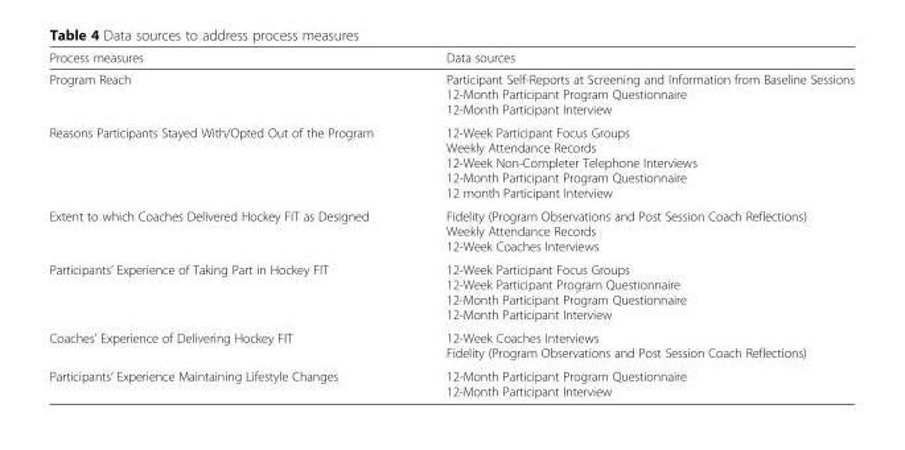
<table><thead><tr><td>Process measures</td><td>Data sources</td></tr></thead><tbody><tr><td>Program Reach</td><td>Participant Self-Reports at Screening and Information from Baseline Sessions 12-Month Participant Program Questionnaire 12-Month Participant Interview</td></tr><tr><td>Reasons Participants Stayed With/Opted Out of the Program</td><td>12-Week Participant Focus Groups Weekly Attendance Records 12-Week Non-Completer Telephone Interviews 12-Month Participant Program Questionnaire 12 month Participant Interview</td></tr><tr><td>Extent to which Coaches Delivered Hockey FIT as Designed</td><td>Fidelity (Program Observations and Post Session Coach Reflections) Weekly Attendance Records 12-Week Coaches Interviews</td></tr><tr><td>Participants’ Experience of Taking Part in Hockey FIT</td><td>12-Week Participant Focus Groups 12-Week Participant Program Questionnaire 12-Month Participant Program Questionnaire 12-Month Participant Interview</td></tr><tr><td>Coaches’ Experience of Delivering Hockey FIT</td><td>12-Week Coaches Interviews Fidelity (Program Observations and Post Session Coach Reflections)</td></tr><tr><td>Participants’ Experience Maintaining Lifestyle Changes</td><td>12-Month Participant Program Questionnaire 12-Month Participant Interview</td></tr></tbody></table>